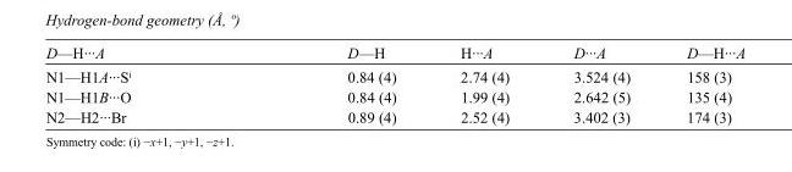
<table><tbody><tr><td>D—H···A</td><td>D—H</td><td>H···A</td><td>D···A</td><td>D—H···A</td></tr><tr><td>N1—H1A···S<sup>i</sup></td><td>0.84 (4)</td><td>2.74 (4)</td><td>3.524 (4)</td><td>158 (3)</td></tr><tr><td>N1—H1B···O</td><td>0.84 (4)</td><td>1.99 (4)</td><td>2.642 (5)</td><td>135 (4)</td></tr><tr><td>N2—H2···Br</td><td>0.89 (4)</td><td>2.52 (4)</td><td>3.402 (3)</td><td>174 (3)</td></tr></tbody></table>